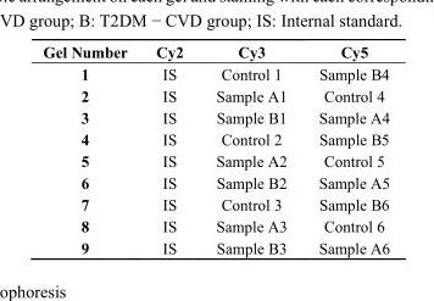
<table><thead><tr><td>Gel Number</td><td>Cy2</td><td>Cy3</td><td>Cy5</td></tr></thead><tbody><tr><td>1</td><td>IS</td><td>Control 1</td><td>Sample B4</td></tr><tr><td>2</td><td>IS</td><td>Sample A1</td><td>Control 4</td></tr><tr><td>3</td><td>IS</td><td>Sample B1</td><td>Sample A4</td></tr><tr><td>4</td><td>IS</td><td>Control 2</td><td>Sample B5</td></tr><tr><td>5</td><td>IS</td><td>Sample A2</td><td>Control 5</td></tr><tr><td>6</td><td>IS</td><td>Sample B2</td><td>Sample A5</td></tr><tr><td>7</td><td>IS</td><td>Control 3</td><td>Sample B6</td></tr><tr><td>8</td><td>IS</td><td>Sample A3</td><td>Control 6</td></tr><tr><td>9</td><td>IS</td><td>Sample B3</td><td>Sample A6</td></tr></tbody></table>